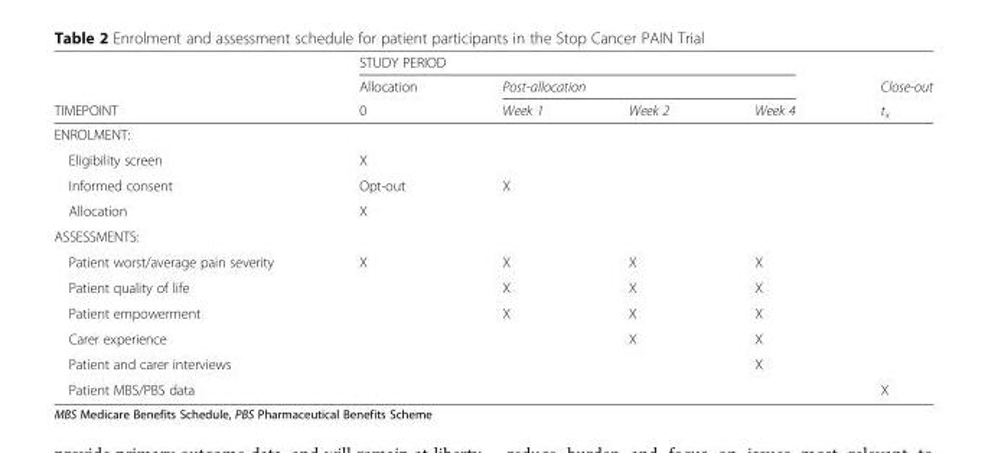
<table><thead><tr><td rowspan="3">TIMEPOINT</td><td colspan="4">STUDY PERIOD</td><td rowspan="3">Close-out t<sub>x</sub></td></tr><tr><td rowspan="2">Allocation 0</td><td colspan="3">Post-allocation</td></tr><tr><td>Week 1</td><td>Week 2</td><td>Week 4</td></tr></thead><tbody><tr><td colspan="6">ENROLMENT:</td></tr><tr><td>Eligibility screen</td><td>X</td><td></td><td></td><td></td><td></td></tr><tr><td>Informed consent</td><td>Opt-out</td><td>X</td><td></td><td></td><td></td></tr><tr><td>Allocation</td><td>X</td><td></td><td></td><td></td><td></td></tr><tr><td colspan="6">ASSESSMENTS:</td></tr><tr><td>Patient worst/average pain severity</td><td>X</td><td>X</td><td>X</td><td>X</td><td></td></tr><tr><td>Patient quality of life</td><td></td><td>X</td><td>X</td><td>X</td><td></td></tr><tr><td>Patient empowerment</td><td></td><td>X</td><td>X</td><td>X</td><td></td></tr><tr><td>Carer experience</td><td></td><td></td><td>X</td><td>X</td><td></td></tr><tr><td>Patient and carer interviews</td><td></td><td></td><td></td><td>X</td><td></td></tr><tr><td>Patient MBS/PBS data</td><td></td><td></td><td></td><td></td><td>X</td></tr></tbody></table>